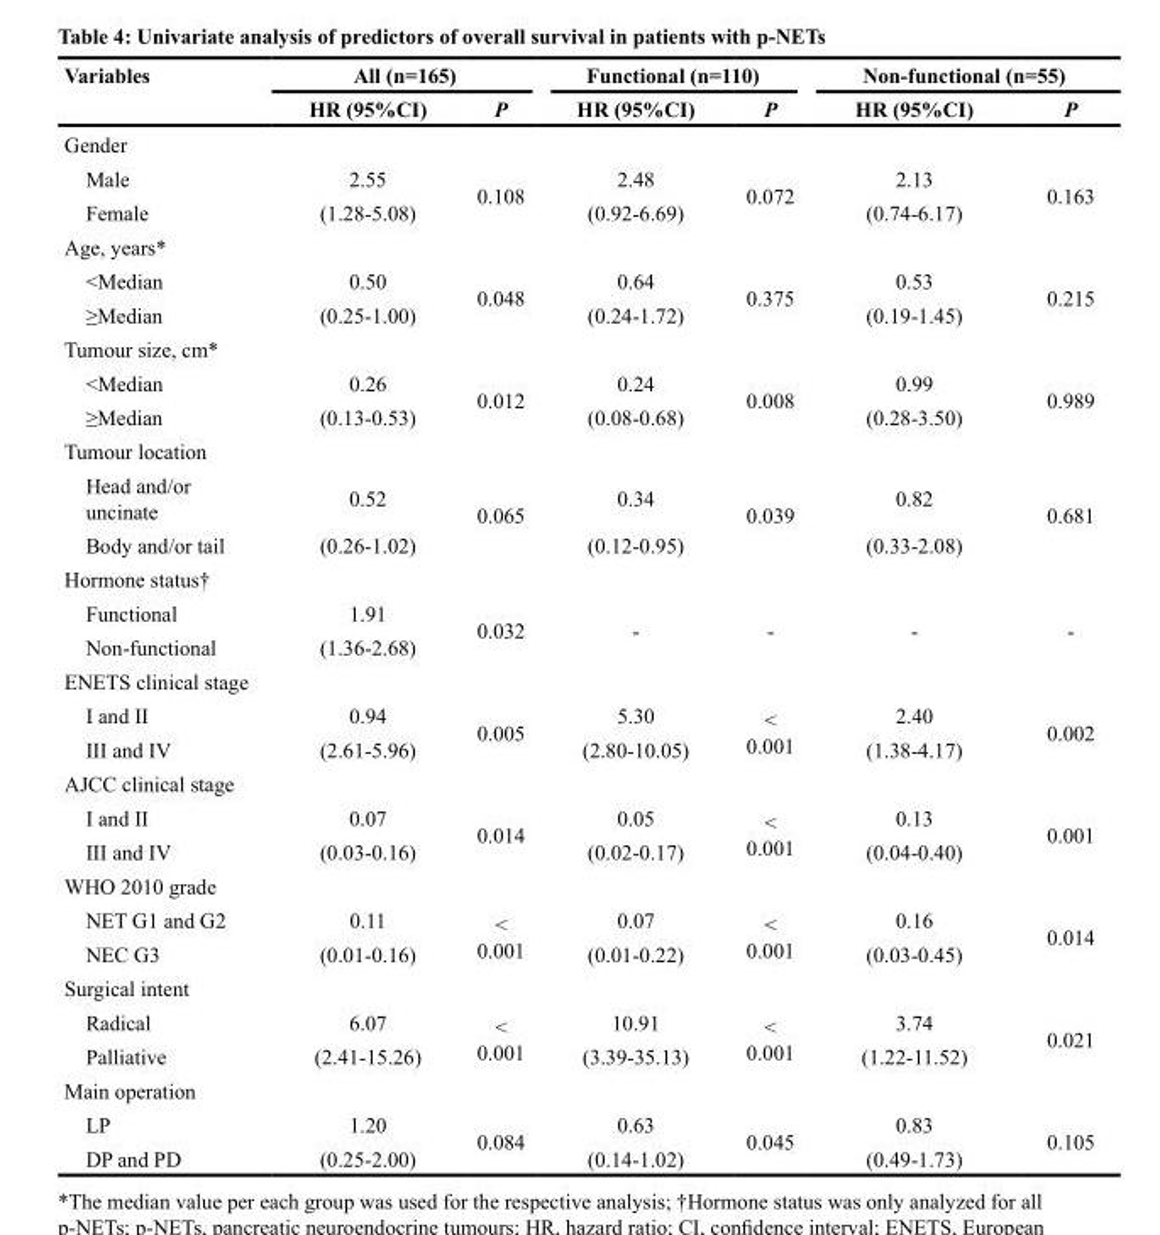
<table><thead><tr><td rowspan="2">Variables</td><td colspan="2">All (n=165)</td><td colspan="2">Functional (n=110)</td><td colspan="2">Non-functional (n=55)</td></tr><tr><td>HR (95%CI)</td><td>P</td><td>HR (95%CI)</td><td>P</td><td>HR (95%CI)</td><td>P</td></tr></thead><tbody><tr><td colspan="7">Gender</td></tr><tr><td>Male</td><td>2.55</td><td rowspan="2">0.108</td><td>2.48</td><td rowspan="2">0.072</td><td>2.13</td><td rowspan="2">0.163</td></tr><tr><td>Female</td><td>(1.28-5.08)</td><td>(0.92-6.69)</td><td>(0.74-6.17)</td></tr><tr><td colspan="7">Age, years*</td></tr><tr><td>&lt;Median</td><td>0.50</td><td rowspan="2">0.048</td><td>0.64</td><td rowspan="2">0.375</td><td>0.53</td><td rowspan="2">0.215</td></tr><tr><td>≥Median</td><td>(0.25-1.00)</td><td>(0.24-1.72)</td><td>(0.19-1.45)</td></tr><tr><td colspan="7">Tumour size, cm*</td></tr><tr><td>&lt;Median</td><td>0.26</td><td rowspan="2">0.012</td><td>0.24</td><td rowspan="2">0.008</td><td>0.99</td><td rowspan="2">0.989</td></tr><tr><td>≥Median</td><td>(0.13-0.53)</td><td>(0.08-0.68)</td><td>(0.28-3.50)</td></tr><tr><td colspan="7">Tumour location</td></tr><tr><td>Head and/or uncinate</td><td>0.52</td><td rowspan="2">0.065</td><td>0.34</td><td rowspan="2">0.039</td><td>0.82</td><td rowspan="2">0.681</td></tr><tr><td>Body and/or tail</td><td>(0.26-1.02)</td><td>(0.12-0.95)</td><td>(0.33-2.08)</td></tr><tr><td colspan="7">Hormone status†</td></tr><tr><td>Functional</td><td>1.91</td><td rowspan="2">0.032</td><td rowspan="2">-</td><td rowspan="2">-</td><td rowspan="2">-</td><td rowspan="2">-</td></tr><tr><td>Non-functional</td><td>(1.36-2.68)</td></tr><tr><td colspan="7">ENETS clinical stage</td></tr><tr><td>I and II</td><td>0.94</td><td rowspan="2">0.005</td><td>5.30</td><td rowspan="2">&lt; 0.001</td><td>2.40</td><td rowspan="2">0.002</td></tr><tr><td>III and IV</td><td>(2.61-5.96)</td><td>(2.80-10.05)</td><td>(1.38-4.17)</td></tr><tr><td colspan="7">AJCC clinical stage</td></tr><tr><td>I and II</td><td>0.07</td><td rowspan="2">0.014</td><td>0.05</td><td rowspan="2">&lt; 0.001</td><td>0.13</td><td rowspan="2">0.001</td></tr><tr><td>III and IV</td><td>(0.03-0.16)</td><td>(0.02-0.17)</td><td>(0.04-0.40)</td></tr><tr><td colspan="7">WHO 2010 grade</td></tr><tr><td>NET G1 and G2</td><td>0.11</td><td rowspan="2">&lt; 0.001</td><td>0.07</td><td rowspan="2">&lt; 0.001</td><td>0.16</td><td rowspan="2">0.014</td></tr><tr><td>NEC G3</td><td>(0.01-0.16)</td><td>(0.01-0.22)</td><td>(0.03-0.45)</td></tr><tr><td colspan="7">Surgical intent</td></tr><tr><td>Radical</td><td>6.07</td><td rowspan="2">&lt; 0.001</td><td>10.91</td><td rowspan="2">&lt; 0.001</td><td>3.74</td><td rowspan="2">0.021</td></tr><tr><td>Palliative</td><td>(2.41-15.26)</td><td>(3.39-35.13)</td><td>(1.22-11.52)</td></tr><tr><td colspan="7">Main operation</td></tr><tr><td>LP</td><td>1.20</td><td rowspan="2">0.084</td><td>0.63</td><td rowspan="2">0.045</td><td>0.83</td><td rowspan="2">0.105</td></tr><tr><td>DP and PD</td><td>(0.25-2.00)</td><td>(0.14-1.02)</td><td>(0.49-1.73)</td></tr></tbody></table>